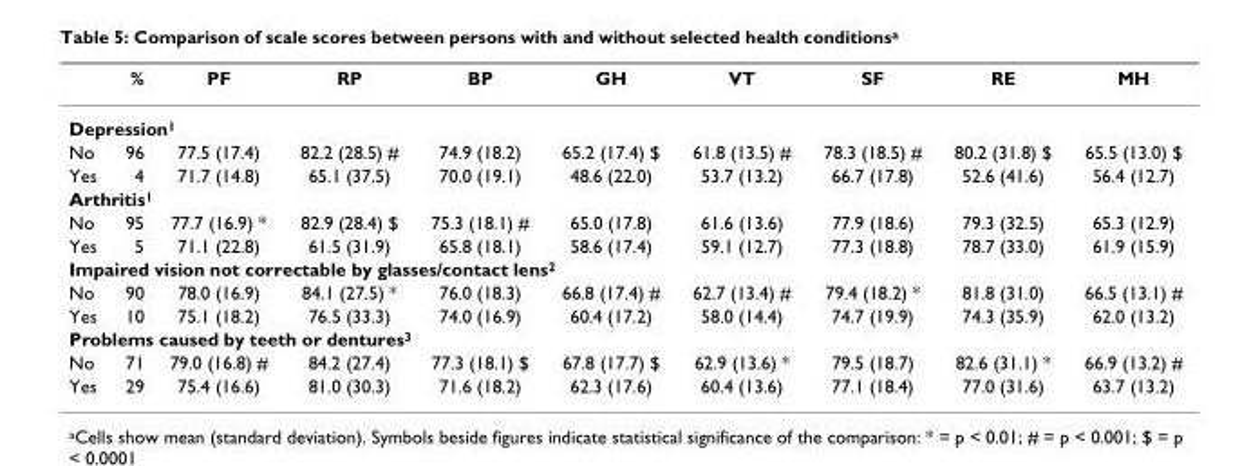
<table><thead><tr><td></td><td>%</td><td>PF</td><td>RP</td><td>BP</td><td>GH</td><td>VT</td><td>SF</td><td>RE</td><td>MH</td></tr></thead><tbody><tr><td colspan="10">Depression<sup>1</sup></td></tr><tr><td>No</td><td>96</td><td>77.5 (17.4)</td><td>82.2 (28.5) #</td><td>74.9 (18.2)</td><td>65.2 (17.4) $</td><td>61.8 (13.5) #</td><td>78.3 (18.5) #</td><td>80.2 (31.8) $</td><td>65.5 (13.0) $</td></tr><tr><td>Yes</td><td>4</td><td>71.7 (14.8)</td><td>65.1 (37.5)</td><td>70.0 (19.1)</td><td>48.6 (22.0)</td><td>53.7 (13.2)</td><td>66.7 (17.8)</td><td>52.6 (41.6)</td><td>56.4 (12.7)</td></tr><tr><td colspan="10">Arthritis<sup>1</sup></td></tr><tr><td>No</td><td>95</td><td>77.7 (16.9) *</td><td>82.9 (28.4) $</td><td>75.3 (18.1) #</td><td>65.0 (17.8)</td><td>61.6 (13.6)</td><td>77.9 (18.6)</td><td>79.3 (32.5)</td><td>65.3 (12.9)</td></tr><tr><td>Yes</td><td>5</td><td>71.1 (22.8)</td><td>61.5 (31.9)</td><td>65.8 (18.1)</td><td>58.6 (17.4)</td><td>59.1 (12.7)</td><td>77.3 (18.8)</td><td>78.7 (33.0)</td><td>61.9 (15.9)</td></tr><tr><td colspan="10">Impaired vision not correctable by glasses/contact lens<sup>2</sup></td></tr><tr><td>No</td><td>90</td><td>78.0 (16.9)</td><td>84.1 (27.5) *</td><td>76.0 (18.3)</td><td>66.8 (17.4) #</td><td>62.7 (13.4) #</td><td>79.4 (18.2) *</td><td>81.8 (31.0)</td><td>66.5 (13.1) #</td></tr><tr><td>Yes</td><td>10</td><td>75.1 (18.2)</td><td>76.5 (33.3)</td><td>74.0 (16.9)</td><td>60.4 (17.2)</td><td>58.0 (14.4)</td><td>74.7 (19.9)</td><td>74.3 (35.9)</td><td>62.0 (13.2)</td></tr><tr><td colspan="10">Problems caused by teeth or dentures<sup>3</sup></td></tr><tr><td>No</td><td>71</td><td>79.0 (16.8) #</td><td>84.2 (27.4)</td><td>77.3 (18.1) $</td><td>67.8 (17.7) $</td><td>62.9 (13.6) *</td><td>79.5 (18.7)</td><td>82.6 (31.1) *</td><td>66.9 (13.2) #</td></tr><tr><td>Yes</td><td>29</td><td>75.4 (16.6)</td><td>81.0 (30.3)</td><td>71.6 (18.2)</td><td>62.3 (17.6)</td><td>60.4 (13.6)</td><td>77.1 (18.4)</td><td>77.0 (31.6)</td><td>63.7 (13.2)</td></tr></tbody></table>